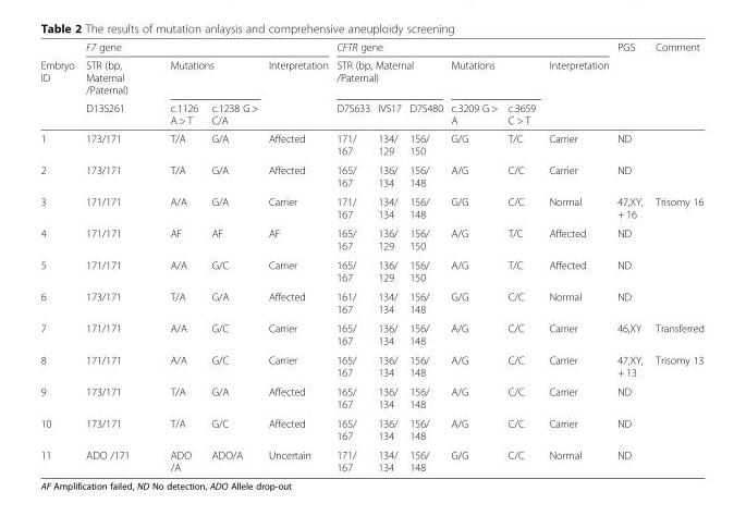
<table><thead><tr><td rowspan="3">Embryo ID</td><td colspan="4">F7 gene</td><td colspan="6">CFTR gene</td><td rowspan="3">PGS</td><td rowspan="3">Comment</td></tr><tr><td rowspan="2">STR (bp, Maternal /Paternal) D13S261</td><td colspan="2">Mutations</td><td rowspan="2">Interpretation</td><td colspan="3">STR (bp, Maternal /Paternal)</td><td colspan="2">Mutations</td><td rowspan="2">Interpretation</td></tr><tr><td>c.1126 A &gt; T</td><td>c.1238 G &gt; C/A</td><td>D7S633</td><td>IVS17</td><td>D7S480</td><td>c.3209 G &gt; A</td><td>c.3659 C &gt; T</td></tr></thead><tbody><tr><td>1</td><td>173/171</td><td>T/A</td><td>G/A</td><td>Affected</td><td>171/ 167</td><td>134/ 129</td><td>156/ 150</td><td>G/G</td><td>T/C</td><td>Carrier</td><td>ND</td><td></td></tr><tr><td>2</td><td>173/171</td><td>T/A</td><td>G/A</td><td>Affected</td><td>165/ 167</td><td>136/ 134</td><td>156/ 148</td><td>A/G</td><td>C/C</td><td>Carrier</td><td>ND</td><td></td></tr><tr><td>3</td><td>171/171</td><td>A/A</td><td>G/A</td><td>Carrier</td><td>171/ 167</td><td>134/ 134</td><td>156/ 148</td><td>G/G</td><td>C/C</td><td>Normal</td><td>47,XY, + 16</td><td>Trisomy 16</td></tr><tr><td>4</td><td>171/171</td><td>AF</td><td>AF</td><td>AF</td><td>165/ 167</td><td>136/ 129</td><td>156/ 150</td><td>A/G</td><td>T/C</td><td>Affected</td><td>ND</td><td></td></tr><tr><td>5</td><td>171/171</td><td>A/A</td><td>G/C</td><td>Carrier</td><td>165/ 167</td><td>136/ 129</td><td>156/ 150</td><td>A/G</td><td>T/C</td><td>Affected</td><td>ND</td><td></td></tr><tr><td>6</td><td>173/171</td><td>T/A</td><td>G/A</td><td>Affected</td><td>161/ 167</td><td>134/ 134</td><td>156/ 148</td><td>G/G</td><td>C/C</td><td>Normal</td><td>ND</td><td></td></tr><tr><td>7</td><td>171/171</td><td>A/A</td><td>G/C</td><td>Carrier</td><td>165/ 167</td><td>136/ 134</td><td>156/ 148</td><td>A/G</td><td>C/C</td><td>Carrier</td><td>46,XY</td><td>Transferred</td></tr><tr><td>8</td><td>171/171</td><td>A/A</td><td>G/C</td><td>Carrier</td><td>165/ 167</td><td>136/ 134</td><td>156/ 148</td><td>A/G</td><td>C/C</td><td>Carrier</td><td>47,XY, + 13</td><td>Trisomy 13</td></tr><tr><td>9</td><td>173/171</td><td>T/A</td><td>G/A</td><td>Affected</td><td>165/ 167</td><td>136/ 134</td><td>156/ 148</td><td>A/G</td><td>C/C</td><td>Carrier</td><td>ND</td><td></td></tr><tr><td>10</td><td>173/171</td><td>T/A</td><td>G/C</td><td>Affected</td><td>165/ 167</td><td>136/ 134</td><td>156/ 148</td><td>A/G</td><td>C/C</td><td>Carrier</td><td>ND</td><td></td></tr><tr><td>11</td><td>ADO /171</td><td>ADO /A</td><td>ADO/A</td><td>Uncertain</td><td>171/ 167</td><td>134/ 134</td><td>156/ 148</td><td>G/G</td><td>C/C</td><td>Normal</td><td>ND</td><td></td></tr></tbody></table>